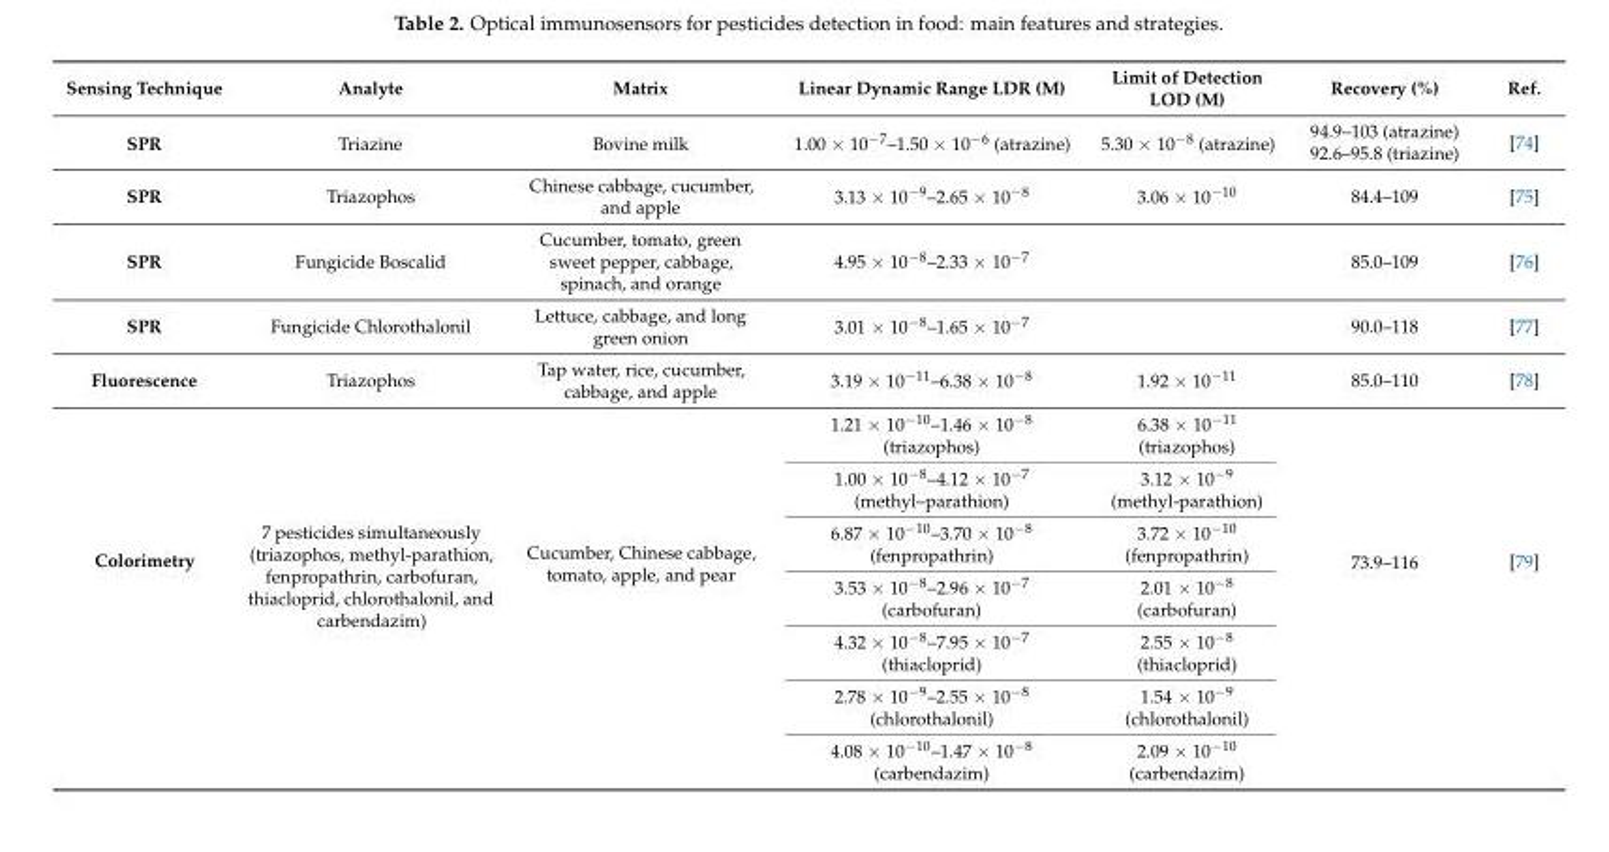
<table><thead><tr><td>Sensing Technique</td><td>Analyte</td><td>Matrix</td><td>Linear Dynamic Range LDR (M)</td><td>Limit of Detection LOD (M)</td><td>Recovery (%)</td><td>Ref.</td></tr></thead><tbody><tr><td rowspan="2">SPR</td><td rowspan="2">Triazine</td><td rowspan="2">Bovine milk</td><td rowspan="2">1.00 × 10<sup>−7</sup>–1.50 × 10<sup>−6</sup> (atrazine)</td><td rowspan="2">5.30 × 10<sup>−8</sup> (atrazine)</td><td>94.9–103 (atrazine)</td><td rowspan="2">[74]</td></tr><tr><td>92.6–95.8 (triazine)</td></tr><tr><td>SPR</td><td>Triazophos</td><td>Chinese cabbage, cucumber, and apple</td><td>3.13 × 10<sup>−9</sup>–2.65 × 10<sup>−8</sup></td><td>3.06 × 10<sup>−10</sup></td><td>84.4–109</td><td>[75]</td></tr><tr><td>SPR</td><td>Fungicide Boscalid</td><td>Cucumber, tomato, green sweet pepper, cabbage, spinach, and orange</td><td>4.95 × 10<sup>−8</sup>–2.33 × 10<sup>−7</sup></td><td></td><td>85.0–109</td><td>[76]</td></tr><tr><td>SPR</td><td>Fungicide Chlorothalonil</td><td>Lettuce, cabbage, and long green onion</td><td>3.01 × 10<sup>−8</sup>–1.65 × 10<sup>−7</sup></td><td></td><td>90.0–118</td><td>[77]</td></tr><tr><td>Fluorescence</td><td>Triazophos</td><td>Tap water, rice, cucumber, cabbage, and apple</td><td>3.19 × 10<sup>−11</sup>–6.38 × 10<sup>−8</sup></td><td>1.92 × 10<sup>−11</sup></td><td>85.0–110</td><td>[78]</td></tr><tr><td rowspan="7">Colorimetry</td><td rowspan="7">7 pesticides simultaneously (triazophos, methyl-parathion, fenpropathrin, carbofuran, thiacloprid, chlorothalonil, and carbendazim)</td><td rowspan="7">Cucumber, Chinese cabbage, tomato, apple, and pear</td><td>1.21 × 10<sup>−10</sup>–1.46 × 10<sup>−8</sup> (triazophos)</td><td>6.38 × 10<sup>−11</sup> (triazophos)</td><td rowspan="7">73.9–116</td><td rowspan="7">[79]</td></tr><tr><td>1.00 × 10<sup>−8</sup>–4.12 × 10<sup>−7</sup> (methyl–parathion)</td><td>3.12 × 10<sup>−9</sup> (methyl-parathion)</td></tr><tr><td>6.87 × 10<sup>−10</sup>–3.70 × 10<sup>−8</sup> (fenpropathrin)</td><td>3.72 × 10<sup>−10</sup> (fenpropathrin)</td></tr><tr><td>3.53 × 10<sup>−8</sup>–2.96 × 10<sup>−7</sup> (carbofuran)</td><td>2.01 × 10<sup>−8</sup> (carbofuran)</td></tr><tr><td>4.32 × 10<sup>−8</sup>–7.95 × 10<sup>−7</sup> (thiacloprid)</td><td>2.55 × 10<sup>−8</sup> (thiacloprid)</td></tr><tr><td>2.78 × 10<sup>−9</sup>–2.55 × 10<sup>−8</sup> (chlorothalonil)</td><td>1.54 × 10<sup>−9</sup> (chlorothalonil)</td></tr><tr><td>4.08 × 10<sup>−10</sup>–1.47 × 10<sup>−8</sup> (carbendazim)</td><td>2.09 × 10<sup>−10</sup> (carbendazim)</td></tr></tbody></table>